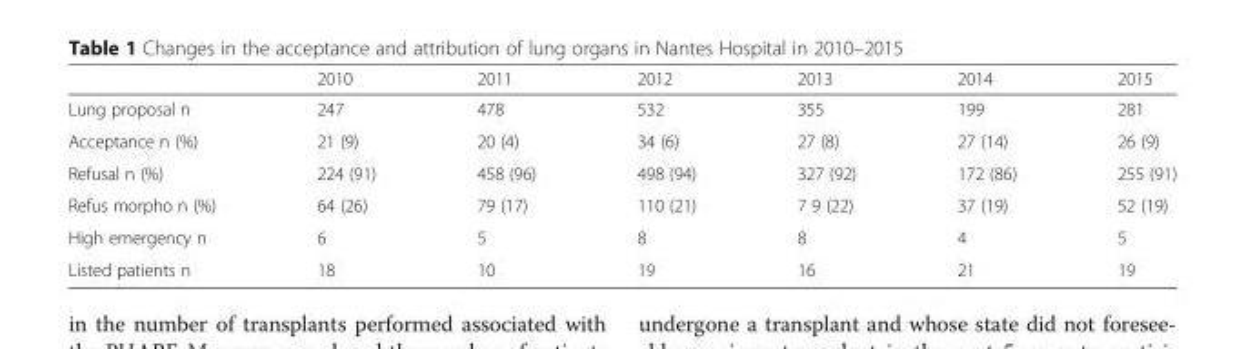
<table><thead><tr><td></td><td>2010</td><td>2011</td><td>2012</td><td>2013</td><td>2014</td><td>2015</td></tr></thead><tbody><tr><td>Lung proposal n</td><td>247</td><td>478</td><td>532</td><td>355</td><td>199</td><td>281</td></tr><tr><td>Acceptance n (%)</td><td>21 (9)</td><td>20 (4)</td><td>34 (6)</td><td>27 (8)</td><td>27 (14)</td><td>26 (9)</td></tr><tr><td>Refusal n (%)</td><td>224 (91)</td><td>458 (96)</td><td>498 (94)</td><td>327 (92)</td><td>172 (86)</td><td>255 (91)</td></tr><tr><td>Refus morpho n (%)</td><td>64 (26)</td><td>79 (17)</td><td>110 (21)</td><td>7 9 (22)</td><td>37 (19)</td><td>52 (19)</td></tr><tr><td>High emergency n</td><td>6</td><td>5</td><td>8</td><td>8</td><td>4</td><td>5</td></tr><tr><td>Listed patients n</td><td>18</td><td>10</td><td>19</td><td>16</td><td>21</td><td>19</td></tr></tbody></table>